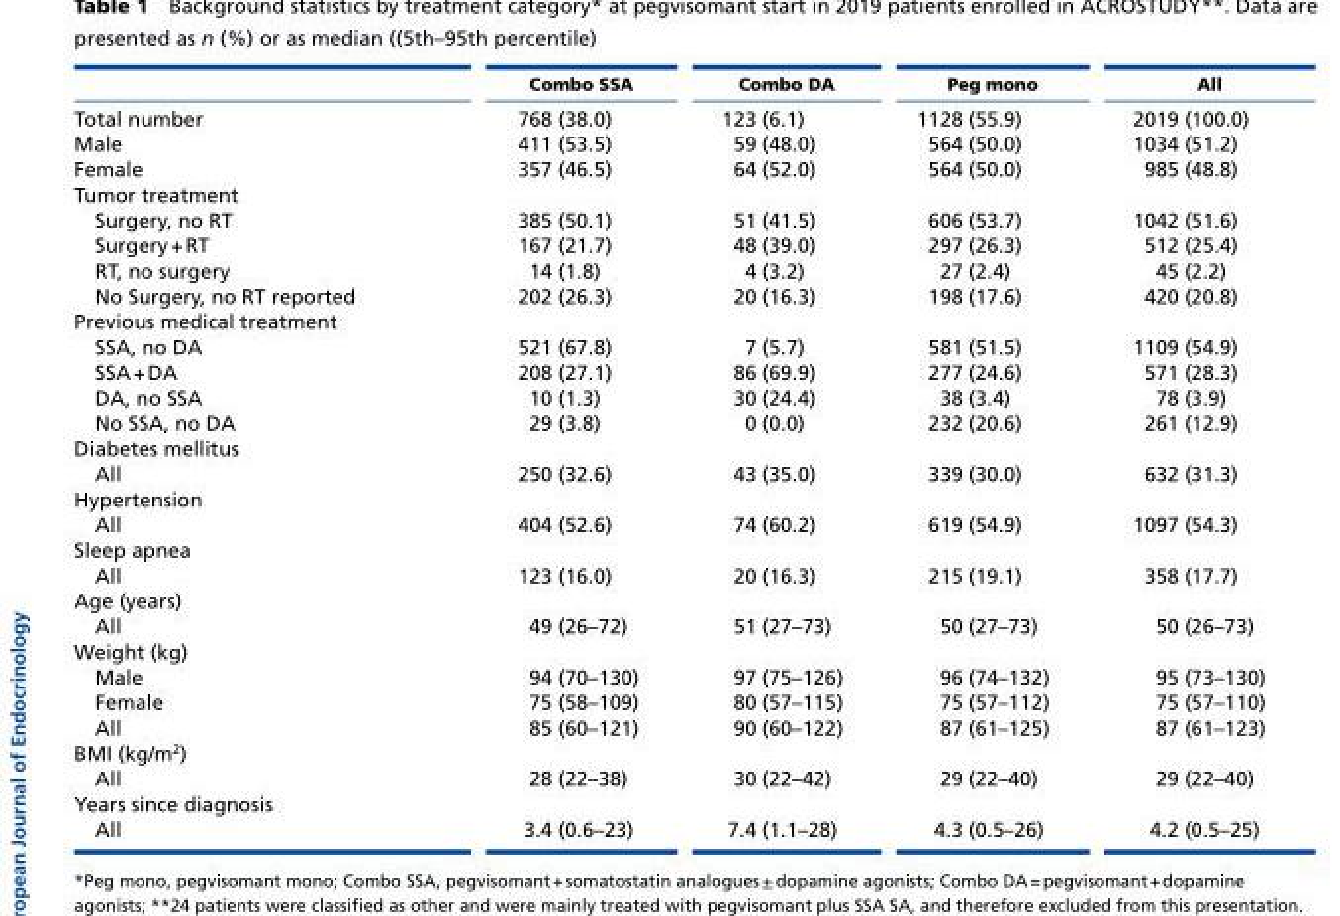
<table><thead><tr><td></td><td>Combo SSA</td><td>Combo DA</td><td>Peg mono</td><td>All</td></tr></thead><tbody><tr><td>Total number</td><td>768 (38.0)</td><td>123 (6.1)</td><td>1128 (55.9)</td><td>2019 (100.0)</td></tr><tr><td>Male</td><td>411 (53.5)</td><td>59 (48.0)</td><td>564 (50.0)</td><td>1034 (51.2)</td></tr><tr><td>Female</td><td>357 (46.5)</td><td>64 (52.0)</td><td>564 (50.0)</td><td>985 (48.8)</td></tr><tr><td colspan="5">Tumor treatment</td></tr><tr><td>Surgery, no RT</td><td>385 (50.1)</td><td>51 (41.5)</td><td>606 (53.7)</td><td>1042 (51.6)</td></tr><tr><td>Surgery + RT</td><td>167 (21.7)</td><td>48 (39.0)</td><td>297 (26.3)</td><td>512 (25.4)</td></tr><tr><td>RT, no surgery</td><td>14 (1.8)</td><td>4 (3.2)</td><td>27 (2.4)</td><td>45 (2.2)</td></tr><tr><td>No Surgery, no RT reported</td><td>202 (26.3)</td><td>20 (16.3)</td><td>198 (17.6)</td><td>420 (20.8)</td></tr><tr><td colspan="5">Previous medical treatment</td></tr><tr><td>SSA, no DA</td><td>521 (67.8)</td><td>7 (5.7)</td><td>581 (51.5)</td><td>1109 (54.9)</td></tr><tr><td>SSA + DA</td><td>208 (27.1)</td><td>86 (69.9)</td><td>277 (24.6)</td><td>571 (28.3)</td></tr><tr><td>DA, no SSA</td><td>10 (1.3)</td><td>30 (24.4)</td><td>38 (3.4)</td><td>78 (3.9)</td></tr><tr><td>No SSA, no DA</td><td>29 (3.8)</td><td>0 (0.0)</td><td>232 (20.6)</td><td>261 (12.9)</td></tr><tr><td colspan="5">Diabetes mellitus</td></tr><tr><td>All</td><td>250 (32.6)</td><td>43 (35.0)</td><td>339 (30.0)</td><td>632 (31.3)</td></tr><tr><td colspan="5">Hypertension</td></tr><tr><td>All</td><td>404 (52.6)</td><td>74 (60.2)</td><td>619 (54.9)</td><td>1097 (54.3)</td></tr><tr><td colspan="5">Sleep apnea</td></tr><tr><td>All</td><td>123 (16.0)</td><td>20 (16.3)</td><td>215 (19.1)</td><td>358 (17.7)</td></tr><tr><td colspan="5">Age (years)</td></tr><tr><td>All</td><td>49 (26–72)</td><td>51 (27–73)</td><td>50 (27–73)</td><td>50 (26–73)</td></tr><tr><td colspan="5">Weight (kg)</td></tr><tr><td>Male</td><td>94 (70–130)</td><td>97 (75–126)</td><td>96 (74–132)</td><td>95 (73–130)</td></tr><tr><td>Female</td><td>75 (58–109)</td><td>80 (57–115)</td><td>75 (57–112)</td><td>75 (57–110)</td></tr><tr><td>All</td><td>85 (60–121)</td><td>90 (60–122)</td><td>87 (61–125)</td><td>87 (61–123)</td></tr><tr><td colspan="5">BMI (kg/m<sup>2</sup>)</td></tr><tr><td>All</td><td>28 (22–38)</td><td>30 (22–42)</td><td>29 (22–40)</td><td>29 (22–40)</td></tr><tr><td colspan="5">Years since diagnosis</td></tr><tr><td>All</td><td>3.4 (0.6–23)</td><td>7.4 (1.1–28)</td><td>4.3 (0.5–26)</td><td>4.2 (0.5–25)</td></tr></tbody></table>